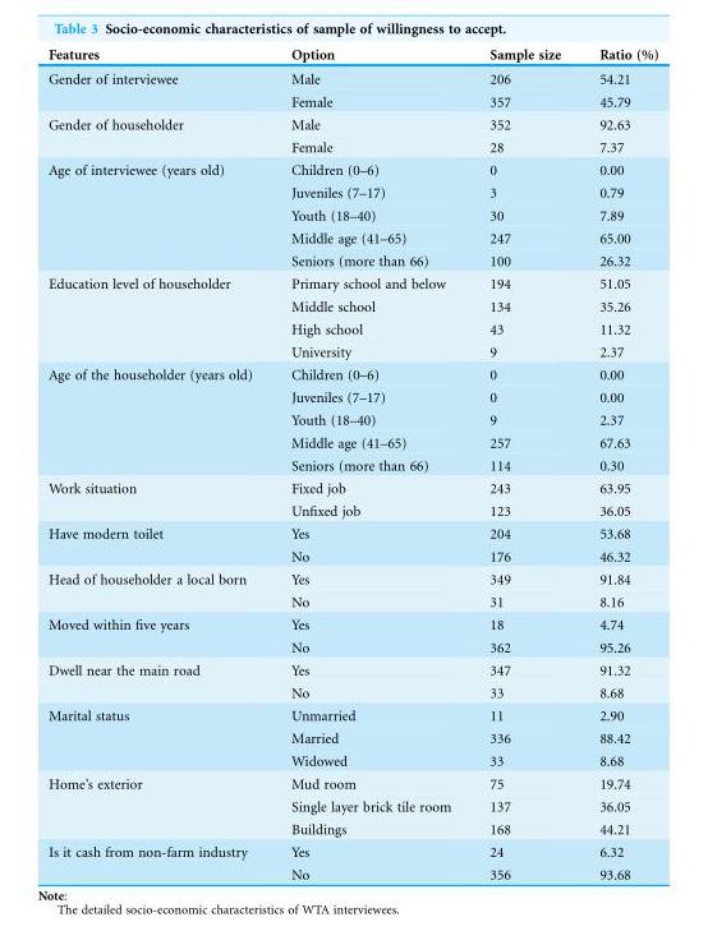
<table><thead><tr><td>Features</td><td>Option</td><td>Sample size</td><td>Ratio (%)</td></tr></thead><tbody><tr><td rowspan="2">Gender of interviewee</td><td>Male</td><td>206</td><td>54.21</td></tr><tr><td>Female</td><td>357</td><td>45.79</td></tr><tr><td rowspan="2">Gender of householder</td><td>Male</td><td>352</td><td>92.63</td></tr><tr><td>Female</td><td>28</td><td>7.37</td></tr><tr><td rowspan="5">Age of interviewee (years old)</td><td>Children (0–6)</td><td>0</td><td>0.00</td></tr><tr><td>Juveniles (7–17)</td><td>3</td><td>0.79</td></tr><tr><td>Youth (18–40)</td><td>30</td><td>7.89</td></tr><tr><td>Middle age (41–65)</td><td>247</td><td>65.00</td></tr><tr><td>Seniors (more than 66)</td><td>100</td><td>26.32</td></tr><tr><td rowspan="4">Education level of householder</td><td>Primary school and below</td><td>194</td><td>51.05</td></tr><tr><td>Middle school</td><td>134</td><td>35.26</td></tr><tr><td>High school</td><td>43</td><td>11.32</td></tr><tr><td>University</td><td>9</td><td>2.37</td></tr><tr><td rowspan="5">Age of the householder (years old)</td><td>Children (0–6)</td><td>0</td><td>0.00</td></tr><tr><td>Juveniles (7–17)</td><td>0</td><td>0.00</td></tr><tr><td>Youth (18–40)</td><td>9</td><td>2.37</td></tr><tr><td>Middle age (41–65)</td><td>257</td><td>67.63</td></tr><tr><td>Seniors (more than 66)</td><td>114</td><td>0.30</td></tr><tr><td rowspan="2">Work situation</td><td>Fixed job</td><td>243</td><td>63.95</td></tr><tr><td>Unfixed job</td><td>123</td><td>36.05</td></tr><tr><td rowspan="2">Have modern toilet</td><td>Yes</td><td>204</td><td>53.68</td></tr><tr><td>No</td><td>176</td><td>46.32</td></tr><tr><td rowspan="2">Head of householder a local born</td><td>Yes</td><td>349</td><td>91.84</td></tr><tr><td>No</td><td>31</td><td>8.16</td></tr><tr><td rowspan="2">Moved within five years</td><td>Yes</td><td>18</td><td>4.74</td></tr><tr><td>No</td><td>362</td><td>95.26</td></tr><tr><td rowspan="2">Dwell near the main road</td><td>Yes</td><td>347</td><td>91.32</td></tr><tr><td>No</td><td>33</td><td>8.68</td></tr><tr><td rowspan="3">Marital status</td><td>Unmarried</td><td>11</td><td>2.90</td></tr><tr><td>Married</td><td>336</td><td>88.42</td></tr><tr><td>Widowed</td><td>33</td><td>8.68</td></tr><tr><td rowspan="3">Home’s exterior</td><td>Mud room</td><td>75</td><td>19.74</td></tr><tr><td>Single layer brick tile room</td><td>137</td><td>36.05</td></tr><tr><td>Buildings</td><td>168</td><td>44.21</td></tr><tr><td rowspan="2">Is it cash from non-farm industry</td><td>Yes</td><td>24</td><td>6.32</td></tr><tr><td>No</td><td>356</td><td>93.68</td></tr></tbody></table>